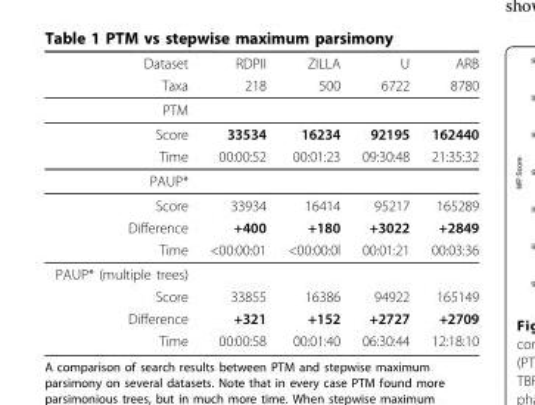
<table><thead><tr><td rowspan="2">Dataset Taxa</td><td rowspan="2">RDPII 218</td><td rowspan="2">ZILLA 500</td><td rowspan="2">U 6722</td><td rowspan="2">ARB 8780</td></tr><tr></tr></thead><tbody><tr><td colspan="5">PTM</td></tr><tr><td>Score</td><td>33534</td><td>16234</td><td>92195</td><td>162440</td></tr><tr><td>Time</td><td>00:00:52</td><td>00:01:23</td><td>09:30:48</td><td>21:35:32</td></tr><tr><td colspan="5">PAUP*</td></tr><tr><td>Score</td><td>33934</td><td>16414</td><td>95217</td><td>165289</td></tr><tr><td>Difference</td><td>+400</td><td>+180</td><td>+3022</td><td>+2849</td></tr><tr><td>Time</td><td>&lt;00:00:01</td><td>&lt;00:00:0l</td><td>00:01:21</td><td>00:03:36</td></tr><tr><td colspan="5">PAUP* (multiple trees)</td></tr><tr><td>Score</td><td>33855</td><td>16386</td><td>94922</td><td>165149</td></tr><tr><td>Difference</td><td>+321</td><td>+152</td><td>+2727</td><td>+2709</td></tr><tr><td>Time</td><td>00:00:58</td><td>00:01:40</td><td>06:30:44</td><td>12:18:10</td></tr></tbody></table>